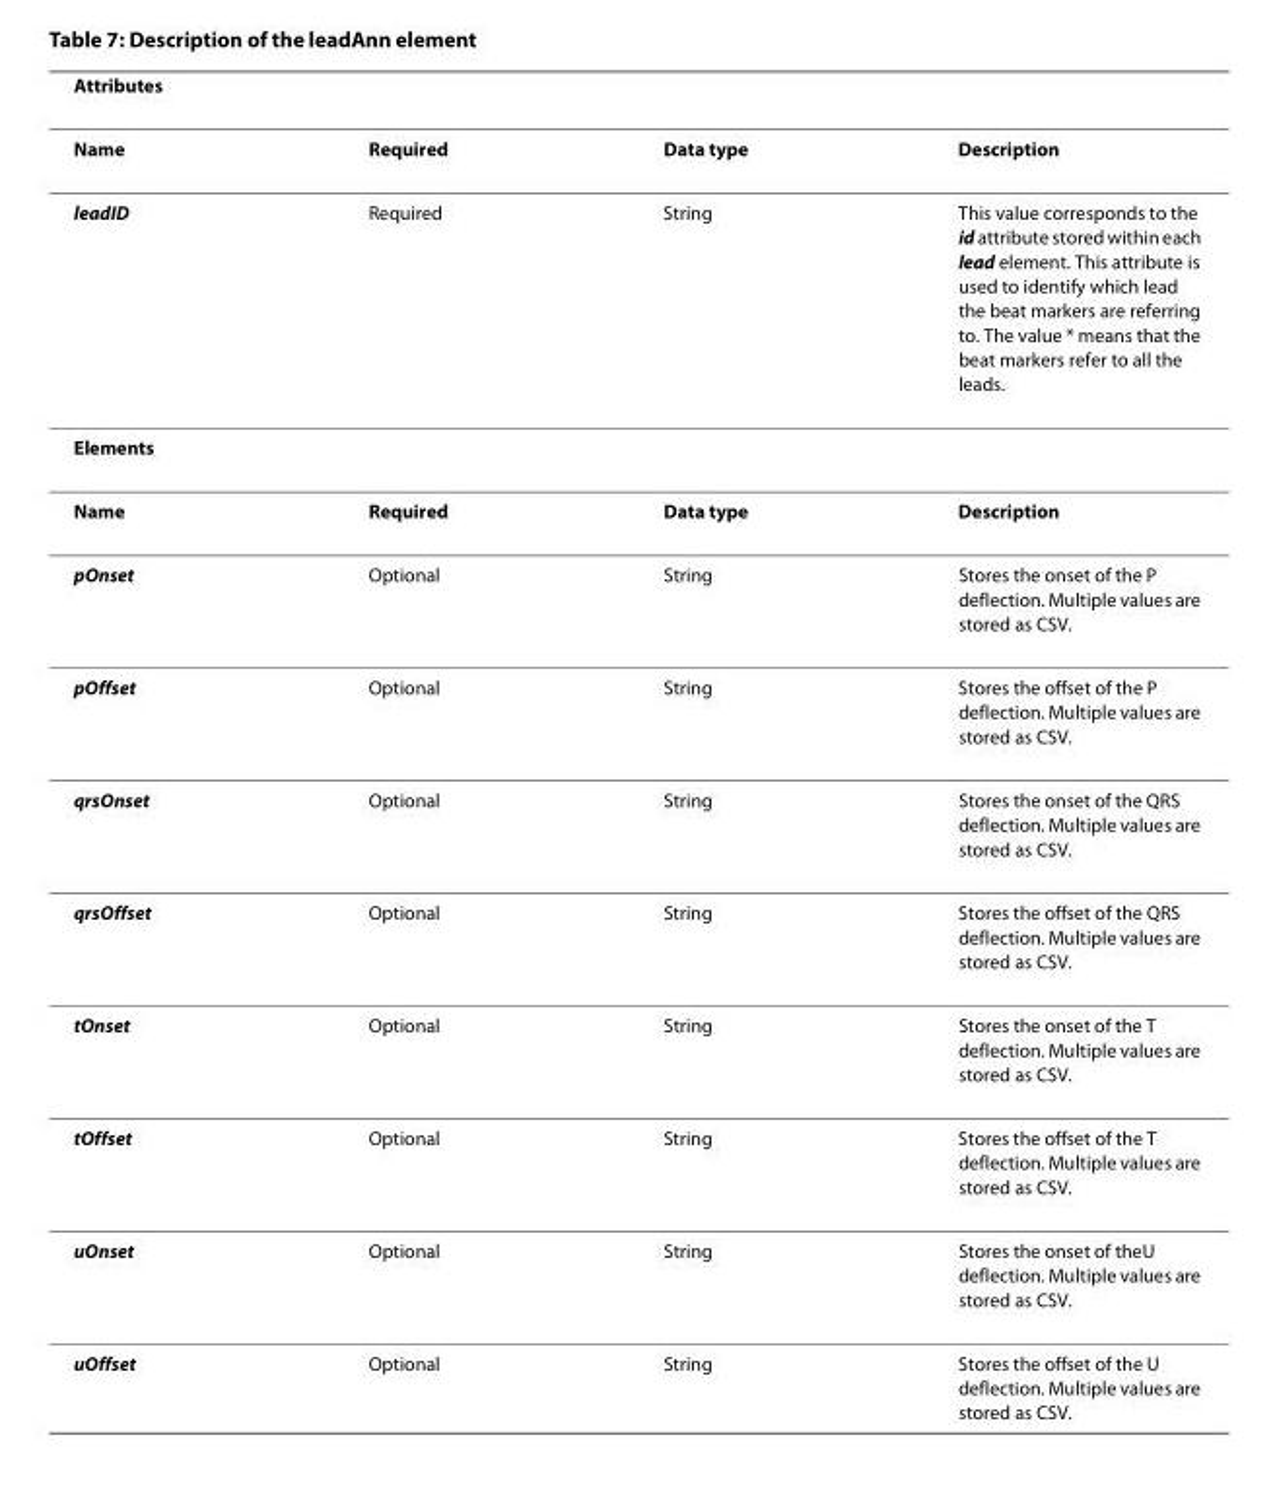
<table><thead><tr><td>Attributes</td><td></td><td></td><td></td></tr></thead><tbody><tr><td>Name</td><td>Required</td><td>Data type</td><td>Description</td></tr><tr><td>leadID</td><td>Required</td><td>String</td><td>This value corresponds to the id attribute stored within each lead element. This attribute is used to identify which lead the beat markers are referring to. The value * means that the beat markers refer to all the leads.</td></tr><tr><td colspan="4">Elements</td></tr><tr><td>Name</td><td>Required</td><td>Data type</td><td>Description</td></tr><tr><td>pOnset</td><td>Optional</td><td>String</td><td>Stores the onset of the P deflection. Multiple values are stored as CSV.</td></tr><tr><td>pOffset</td><td>Optional</td><td>String</td><td>Stores the offset of the P deflection. Multiple values are stored as CSV.</td></tr><tr><td>qrsOnset</td><td>Optional</td><td>String</td><td>Stores the onset of the QRS deflection. Multiple values are stored as CSV.</td></tr><tr><td>qrsOffset</td><td>Optional</td><td>String</td><td>Stores the offset of the QRS deflection. Multiple values are stored as CSV.</td></tr><tr><td>tOnset</td><td>Optional</td><td>String</td><td>Stores the onset of the T deflection. Multiple values are stored as CSV.</td></tr><tr><td>tOffset</td><td>Optional</td><td>String</td><td>Stores the offset of the T deflection. Multiple values are stored as CSV.</td></tr><tr><td>uOnset</td><td>Optional</td><td>String</td><td>Stores the onset of theU deflection. Multiple values are stored as CSV.</td></tr><tr><td>uOffset</td><td>Optional</td><td>String</td><td>Stores the offset of the U deflection. Multiple values are stored as CSV.</td></tr></tbody></table>